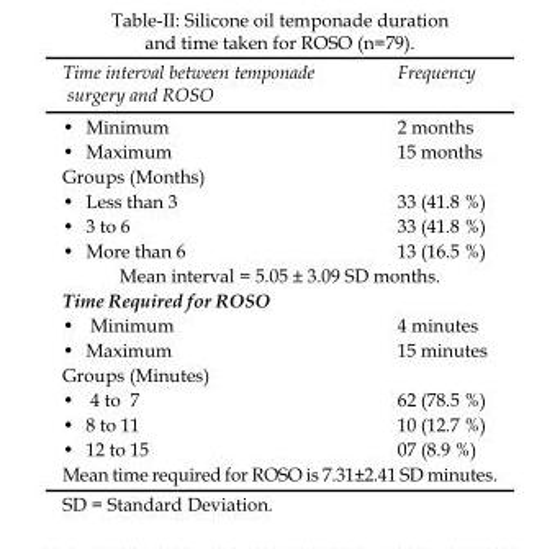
<table><thead><tr><td>Time interval between temponade surgery and ROSO</td><td>Frequency</td></tr></thead><tbody><tr><td>• Minimum</td><td>2 months</td></tr><tr><td>• Maximum</td><td>15 months</td></tr><tr><td colspan="2">Groups (Months)</td></tr><tr><td>• Less than 3</td><td>33 (41.8 %)</td></tr><tr><td>• 3 to 6</td><td>33 (41.8 %)</td></tr><tr><td>• More than 6</td><td>13 (16.5 %)</td></tr><tr><td colspan="2">Mean interval = 5.05 ± 3.09 SD months.</td></tr><tr><td colspan="2">Time Required for ROSO</td></tr><tr><td>• Minimum</td><td>4 minutes</td></tr><tr><td>• Maximum</td><td>15 minutes</td></tr><tr><td colspan="2">Groups (Minutes)</td></tr><tr><td>• 4 to 7</td><td>62 (78.5 %)</td></tr><tr><td>• 8 to 11</td><td>10 (12.7 %)</td></tr><tr><td>• 12 to 15</td><td>07 (8.9 %)</td></tr><tr><td colspan="2">Mean time required for ROSO is 7.31±2.41 SD minutes.</td></tr></tbody></table>